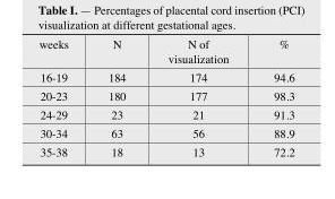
<table><thead><tr><td rowspan="2">weeks</td><td rowspan="2">N</td><td rowspan="2">N of visualization</td><td rowspan="2">%</td></tr><tr></tr></thead><tbody><tr><td>16-19</td><td>184</td><td>174</td><td>94.6</td></tr><tr><td>20-23</td><td>180</td><td>177</td><td>98.3</td></tr><tr><td>24-29</td><td>23</td><td>21</td><td>91.3</td></tr><tr><td>30-34</td><td>63</td><td>56</td><td>88.9</td></tr><tr><td>35-38</td><td>18</td><td>13</td><td>72.2</td></tr></tbody></table>